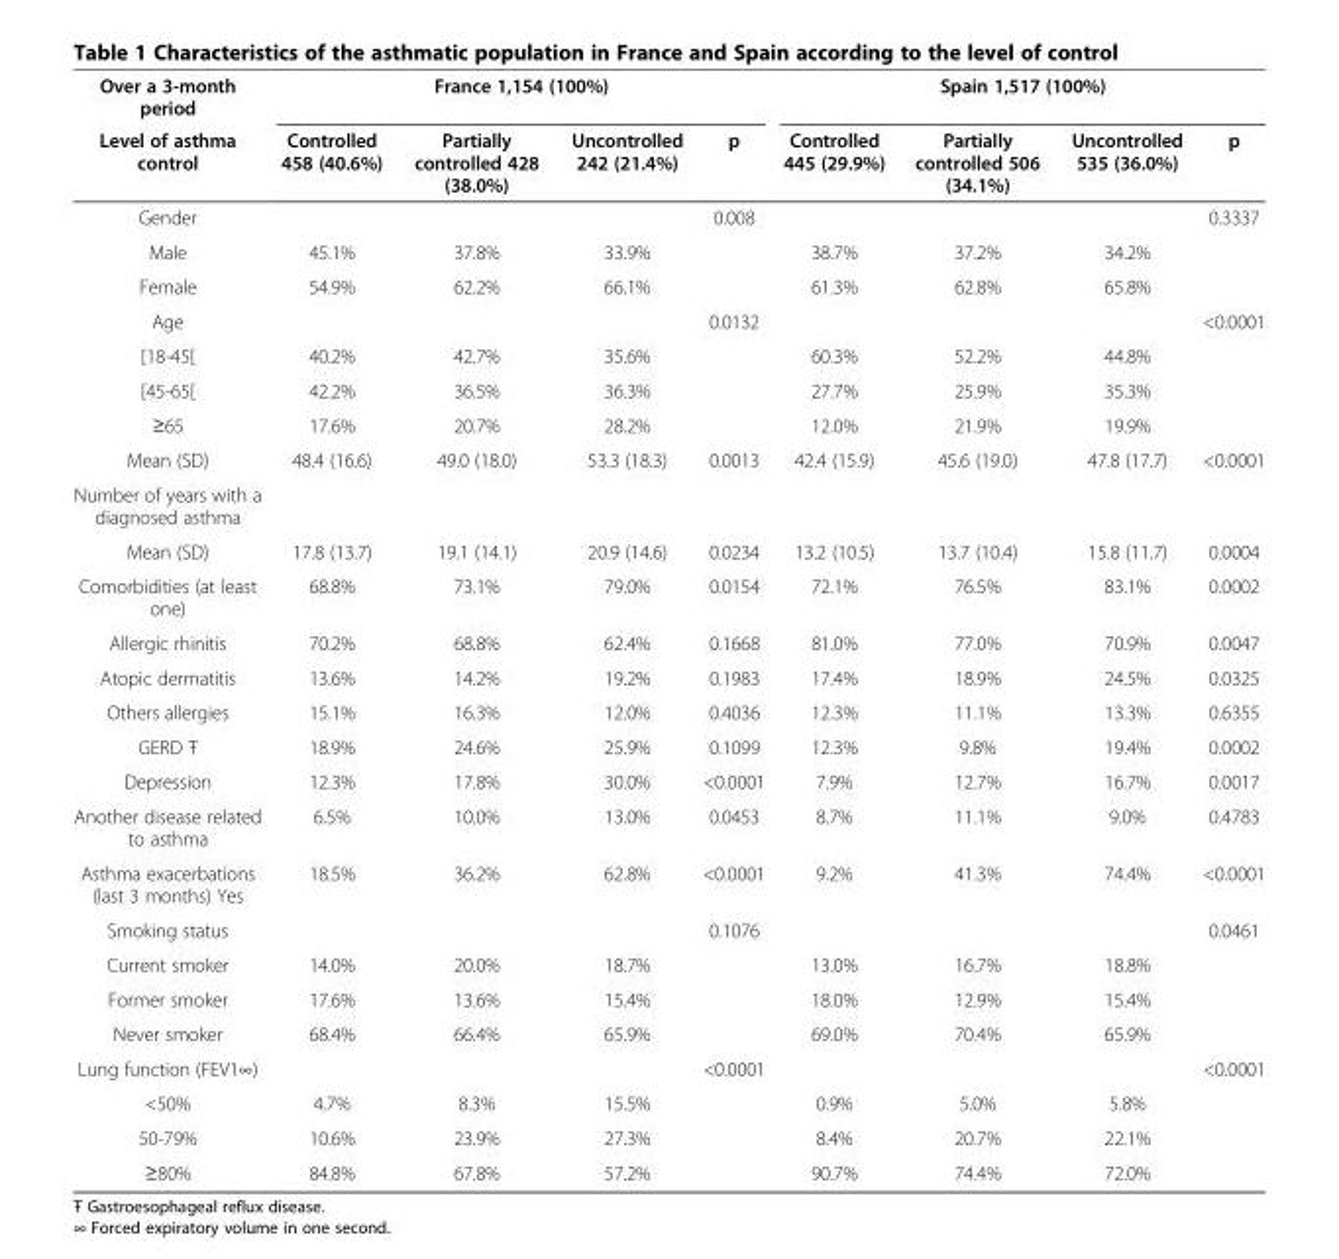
<table><thead><tr><td rowspan="2">Over a 3-month period Level of asthma control</td><td colspan="4">France 1,154 (100%)</td><td colspan="4">Spain 1,517 (100%)</td></tr><tr><td>Controlled 458 (40.6%)</td><td>Partially controlled 428 (38.0%)</td><td>Uncontrolled 242 (21.4%)</td><td>p</td><td>Controlled 445 (29.9%)</td><td>Partially controlled 506 (34.1%)</td><td>Uncontrolled 535 (36.0%)</td><td>p</td></tr></thead><tbody><tr><td>Gender</td><td></td><td></td><td></td><td>0.008</td><td></td><td></td><td></td><td>0.3337</td></tr><tr><td>Male</td><td>45.1%</td><td>37.8%</td><td>33.9%</td><td></td><td>38.7%</td><td>37.2%</td><td>34.2%</td><td></td></tr><tr><td>Female</td><td>54.9%</td><td>62.2%</td><td>66.1%</td><td></td><td>61.3%</td><td>62.8%</td><td>65.8%</td><td></td></tr><tr><td>Age</td><td></td><td></td><td></td><td>0.0132</td><td></td><td></td><td></td><td>&lt;0.0001</td></tr><tr><td>[18-45[</td><td>40.2%</td><td>42.7%</td><td>35.6%</td><td></td><td>60.3%</td><td>52.2%</td><td>44.8%</td><td></td></tr><tr><td>[45-65[</td><td>42.2%</td><td>36.5%</td><td>36.3%</td><td></td><td>27.7%</td><td>25.9%</td><td>35.3%</td><td></td></tr><tr><td>≥65</td><td>17.6%</td><td>20.7%</td><td>28.2%</td><td></td><td>12.0%</td><td>21.9%</td><td>19.9%</td><td></td></tr><tr><td>Mean (SD)</td><td>48.4 (16.6)</td><td>49.0 (18.0)</td><td>53.3 (18.3)</td><td>0.0013</td><td>42.4 (15.9)</td><td>45.6 (19.0)</td><td>47.8 (17.7)</td><td>&lt;0.0001</td></tr><tr><td colspan="9">Number of years with a diagnosed asthma</td></tr><tr><td>Mean (SD)</td><td>17.8 (13.7)</td><td>19.1 (14.1)</td><td>20.9 (14.6)</td><td>0.0234</td><td>13.2 (10.5)</td><td>13.7 (10.4)</td><td>15.8 (11.7)</td><td>0.0004</td></tr><tr><td>Comorbidities (at least one)</td><td>68.8%</td><td>73.1%</td><td>79.0%</td><td>0.0154</td><td>72.1%</td><td>76.5%</td><td>83.1%</td><td>0.0002</td></tr><tr><td>Allergic rhinitis</td><td>70.2%</td><td>68.8%</td><td>62.4%</td><td>0.1668</td><td>81.0%</td><td>77.0%</td><td>70.9%</td><td>0.0047</td></tr><tr><td>Atopic dermatitis</td><td>13.6%</td><td>14.2%</td><td>19.2%</td><td>0.1983</td><td>17.4%</td><td>18.9%</td><td>24.5%</td><td>0.0325</td></tr><tr><td>Others allergies</td><td>15.1%</td><td>16.3%</td><td>12.0%</td><td>0.4036</td><td>12.3%</td><td>11.1%</td><td>13.3%</td><td>0.6355</td></tr><tr><td>GERD Ŧ</td><td>18.9%</td><td>24.6%</td><td>25.9%</td><td>0.1099</td><td>12.3%</td><td>9.8%</td><td>19.4%</td><td>0.0002</td></tr><tr><td>Depression</td><td>12.3%</td><td>17.8%</td><td>30.0%</td><td>&lt;0.0001</td><td>7.9%</td><td>12.7%</td><td>16.7%</td><td>0.0017</td></tr><tr><td>Another disease related to asthma</td><td>6.5%</td><td>10.0%</td><td>13.0%</td><td>0.0453</td><td>8.7%</td><td>11.1%</td><td>9.0%</td><td>0.4783</td></tr><tr><td>Asthma exacerbations (last 3 months) Yes</td><td>18.5%</td><td>36.2%</td><td>62.8%</td><td>&lt;0.0001</td><td>9.2%</td><td>41.3%</td><td>74.4%</td><td>&lt;0.0001</td></tr><tr><td>Smoking status</td><td></td><td></td><td></td><td>0.1076</td><td></td><td></td><td></td><td>0.0461</td></tr><tr><td>Current smoker</td><td>14.0%</td><td>20.0%</td><td>18.7%</td><td></td><td>13.0%</td><td>16.7%</td><td>18.8%</td><td></td></tr><tr><td>Former smoker</td><td>17.6%</td><td>13.6%</td><td>15.4%</td><td></td><td>18.0%</td><td>12.9%</td><td>15.4%</td><td></td></tr><tr><td>Never smoker</td><td>68.4%</td><td>66.4%</td><td>65.9%</td><td></td><td>69.0%</td><td>70.4%</td><td>65.9%</td><td></td></tr><tr><td>Lung function (FEV1∞)</td><td></td><td></td><td></td><td>&lt;0.0001</td><td></td><td></td><td></td><td>&lt;0.0001</td></tr><tr><td>&lt;50%</td><td>4.7%</td><td>8.3%</td><td>15.5%</td><td></td><td>0.9%</td><td>5.0%</td><td>5.8%</td><td></td></tr><tr><td>50-79%</td><td>10.6%</td><td>23.9%</td><td>27.3%</td><td></td><td>8.4%</td><td>20.7%</td><td>22.1%</td><td></td></tr><tr><td>≥80%</td><td>84.8%</td><td>67.8%</td><td>57.2%</td><td></td><td>90.7%</td><td>74.4%</td><td>72.0%</td><td></td></tr></tbody></table>